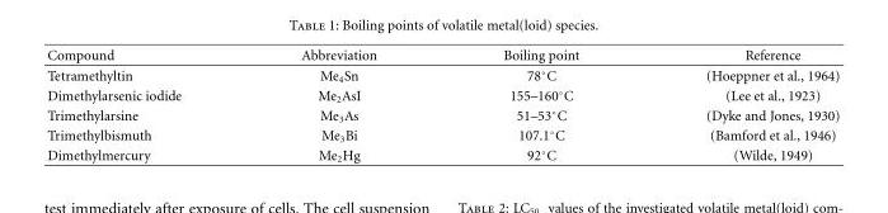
<table><thead><tr><td>Compound</td><td>Abbreviation</td><td>Boiling point</td><td>Reference</td></tr></thead><tbody><tr><td>Tetramethyltin</td><td>Me<sub>4</sub>Sn</td><td>78◦C</td><td>(Hoeppner et al., 1964)</td></tr><tr><td>Dimethylarsenic iodide</td><td>Me<sub>2</sub>AsI</td><td>155–160◦C</td><td>(Lee et al., 1923)</td></tr><tr><td>Trimethylarsine</td><td>Me<sub>3</sub>As</td><td>51–53◦C</td><td>(Dyke and Jones, 1930)</td></tr><tr><td>Trimethylbismuth</td><td>Me<sub>3</sub>Bi</td><td>107.1◦C</td><td>(Bamford et al., 1946)</td></tr><tr><td>Dimethylmercury</td><td>Me<sub>2</sub>Hg</td><td>92◦C</td><td>(Wilde, 1949)</td></tr></tbody></table>